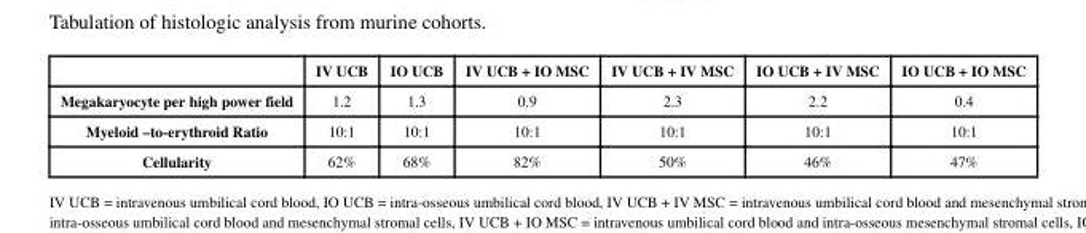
<table><thead><tr><td></td><td>IV UCB</td><td>IO UCB</td><td>IV UCB + IO MSC</td><td>IV UCB + IV MSC</td><td>IO UCB + IV MSC</td><td>IO UCB + IO MSC</td></tr></thead><tbody><tr><td>Megakaryocyte per high power field</td><td>1.2</td><td>1.3</td><td>0.9</td><td>2.3</td><td>2.2</td><td>0.4</td></tr><tr><td>Myeloid –to-erythroid Ratio</td><td>10:1</td><td>10:1</td><td>10:1</td><td>10:1</td><td>10:1</td><td>10:1</td></tr><tr><td>Cellularity</td><td>62%</td><td>68%</td><td>82%</td><td>50%</td><td>46%</td><td>47%</td></tr></tbody></table>